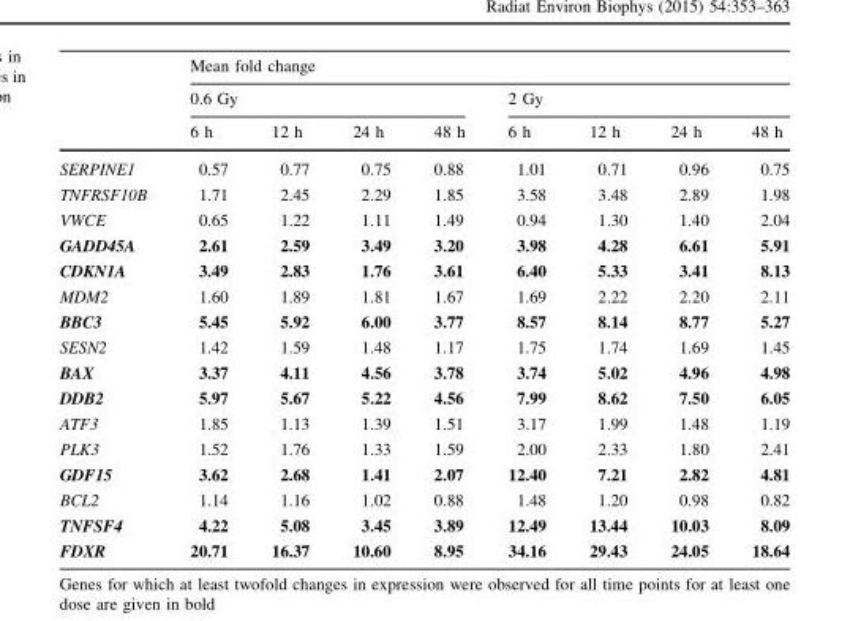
<table><thead><tr><td rowspan="3"></td><td colspan="8">Mean fold change</td></tr><tr><td colspan="4">0.6 Gy</td><td colspan="4">2 Gy</td></tr><tr><td>6 h</td><td>12 h</td><td>24 h</td><td>48 h</td><td>6 h</td><td>12 h</td><td>24 h</td><td>48 h</td></tr></thead><tbody><tr><td>SERPINE1</td><td>0.57</td><td>0.77</td><td>0.75</td><td>0.88</td><td>1.01</td><td>0.71</td><td>0.96</td><td>0.75</td></tr><tr><td>TNFRSF10B</td><td>1.71</td><td>2.45</td><td>2.29</td><td>1.85</td><td>3.58</td><td>3.48</td><td>2.89</td><td>1.98</td></tr><tr><td>VWCE</td><td>0.65</td><td>1.22</td><td>1.11</td><td>1.49</td><td>0.94</td><td>1.30</td><td>1.40</td><td>2.04</td></tr><tr><td>GADD45A</td><td>2.61</td><td>2.59</td><td>3.49</td><td>3.20</td><td>3.98</td><td>4.28</td><td>6.61</td><td>5.91</td></tr><tr><td>CDKN1A</td><td>3.49</td><td>2.83</td><td>1.76</td><td>3.61</td><td>6.40</td><td>5.33</td><td>3.41</td><td>8.13</td></tr><tr><td>MDM2</td><td>1.60</td><td>1.89</td><td>1.81</td><td>1.67</td><td>1.69</td><td>2.22</td><td>2.20</td><td>2.11</td></tr><tr><td>BBC3</td><td>5.45</td><td>5.92</td><td>6.00</td><td>3.77</td><td>8.57</td><td>8.14</td><td>8.77</td><td>5.27</td></tr><tr><td>SESN2</td><td>1.42</td><td>1.59</td><td>1.48</td><td>1.17</td><td>1.75</td><td>1.74</td><td>1.69</td><td>1.45</td></tr><tr><td>BAX</td><td>3.37</td><td>4.11</td><td>4.56</td><td>3.78</td><td>3.74</td><td>5.02</td><td>4.96</td><td>4.98</td></tr><tr><td>DDB2</td><td>5.97</td><td>5.67</td><td>5.22</td><td>4.56</td><td>7.99</td><td>8.62</td><td>7.50</td><td>6.05</td></tr><tr><td>ATF3</td><td>1.85</td><td>1.13</td><td>1.39</td><td>1.51</td><td>3.17</td><td>1.99</td><td>1.48</td><td>1.19</td></tr><tr><td>PLK3</td><td>1.52</td><td>1.76</td><td>1.33</td><td>1.59</td><td>2.00</td><td>2.33</td><td>1.80</td><td>2.41</td></tr><tr><td>GDF15</td><td>3.62</td><td>2.68</td><td>1.41</td><td>2.07</td><td>12.40</td><td>7.21</td><td>2.82</td><td>4.81</td></tr><tr><td>BCL2</td><td>1.14</td><td>1.16</td><td>1.02</td><td>0.88</td><td>1.48</td><td>1.20</td><td>0.98</td><td>0.82</td></tr><tr><td>TNFSF4</td><td>4.22</td><td>5.08</td><td>3.45</td><td>3.89</td><td>12.49</td><td>13.44</td><td>10.03</td><td>8.09</td></tr><tr><td>FDXR</td><td>20.71</td><td>16.37</td><td>10.60</td><td>8.95</td><td>34.16</td><td>29.43</td><td>24.05</td><td>18.64</td></tr></tbody></table>